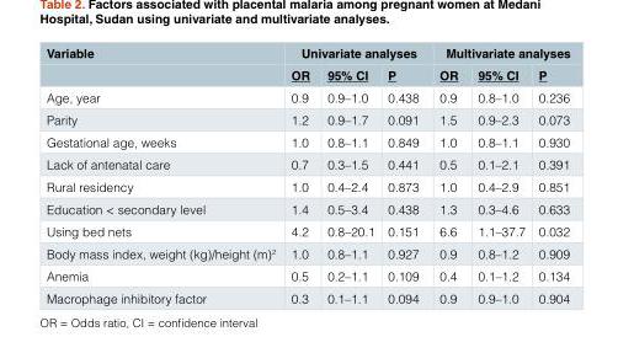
<table><thead><tr><td rowspan="2">Variable</td><td colspan="3">Univariate analyses</td><td colspan="3">Multivariate analyses</td></tr><tr><td>OR</td><td>95% CI</td><td>P</td><td>OR</td><td>95% CI</td><td>P</td></tr></thead><tbody><tr><td>Age, year</td><td>0.9</td><td>0.9–1.0</td><td>0.438</td><td>0.9</td><td>0.8–1.0</td><td>0.236</td></tr><tr><td>Parity</td><td>1.2</td><td>0.9–1.7</td><td>0.091</td><td>1.5</td><td>0.9–2.3</td><td>0.073</td></tr><tr><td>Gestational age, weeks</td><td>1.0</td><td>0.8–1.1</td><td>0.849</td><td>1.0</td><td>0.8–1.1</td><td>0.930</td></tr><tr><td>Lack of antenatal care</td><td>0.7</td><td>0.3–1.5</td><td>0.441</td><td>0.5</td><td>0.1–2.1</td><td>0.391</td></tr><tr><td>Rural residency</td><td>1.0</td><td>0.4–2.4</td><td>0.873</td><td>1.0</td><td>0.4–2.9</td><td>0.851</td></tr><tr><td>Education &lt; secondary level</td><td>1.4</td><td>0.5–3.4</td><td>0.438</td><td>1.3</td><td>0.3–4.6</td><td>0.633</td></tr><tr><td>Using bed nets</td><td>4.2</td><td>0.8–20.1</td><td>0.151</td><td>6.6</td><td>1.1–37.7</td><td>0.032</td></tr><tr><td>Body mass index, weight (kg)/height (m)<sup>2</sup></td><td>1.0</td><td>0.8–1.1</td><td>0.927</td><td>0.9</td><td>0.8–1.2</td><td>0.909</td></tr><tr><td>Anemia</td><td>0.5</td><td>0.2–1.1</td><td>0.109</td><td>0.4</td><td>0.1–1.2</td><td>0.134</td></tr><tr><td>Macrophage inhibitory factor</td><td>0.3</td><td>0.1–1.1</td><td>0.094</td><td>0.9</td><td>0.9–1.0</td><td>0.904</td></tr></tbody></table>